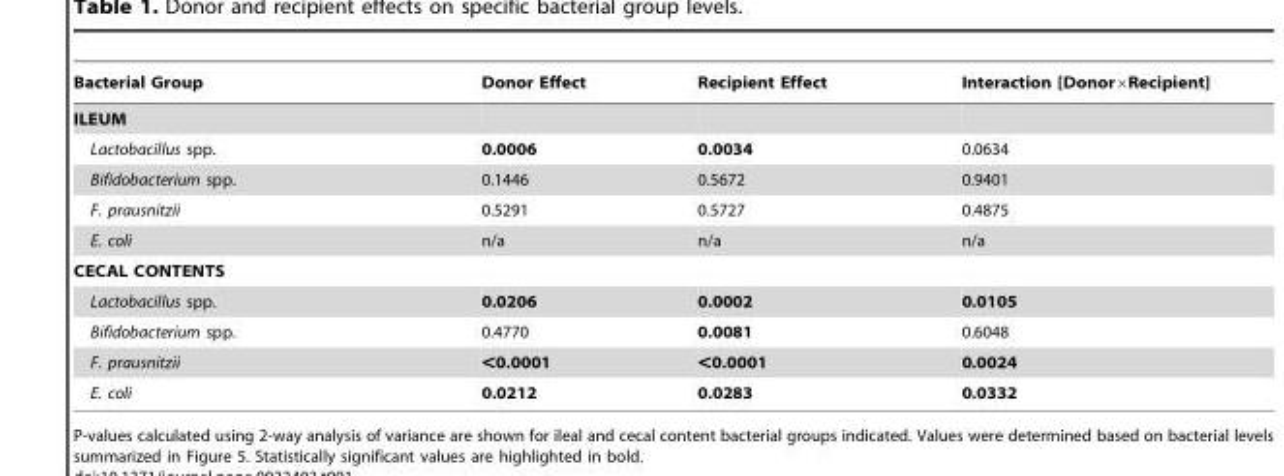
<table><thead><tr><td>Bacterial Group</td><td>Donor Effect</td><td>Recipient Effect</td><td>Interaction [Donor×Recipient]</td></tr></thead><tbody><tr><td colspan="4">ILEUM</td></tr><tr><td>Lactobacillus spp.</td><td>0.0006</td><td>0.0034</td><td>0.0634</td></tr><tr><td>Bifidobacterium spp.</td><td>0.1446</td><td>0.5672</td><td>0.9401</td></tr><tr><td>F. prausnitzii</td><td>0.5291</td><td>0.5727</td><td>0.4875</td></tr><tr><td>E. coli</td><td>n/a</td><td>n/a</td><td>n/a</td></tr><tr><td colspan="4">CECAL CONTENTS</td></tr><tr><td>Lactobacillus spp.</td><td>0.0206</td><td>0.0002</td><td>0.0105</td></tr><tr><td>Bifidobacterium spp.</td><td>0.4770</td><td>0.0081</td><td>0.6048</td></tr><tr><td>F. prausnitzii</td><td>&lt;0.0001</td><td>&lt;0.0001</td><td>0.0024</td></tr><tr><td>E. coli</td><td>0.0212</td><td>0.0283</td><td>0.0332</td></tr></tbody></table>